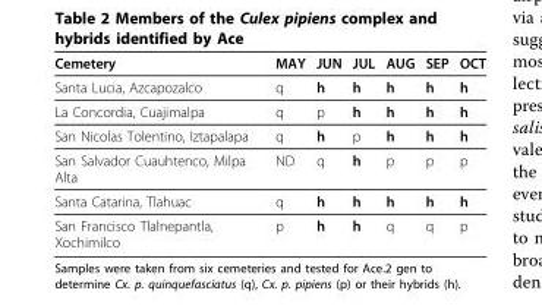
<table><thead><tr><td>Cemetery</td><td>MAY</td><td>JUN</td><td>JUL</td><td>AUG</td><td>SEP</td><td>OCT</td></tr></thead><tbody><tr><td>Santa Lucia, Azcapozalco</td><td>q</td><td>h</td><td>h</td><td>h</td><td>h</td><td>h</td></tr><tr><td>La Concordia, Cuajimalpa</td><td>q</td><td>p</td><td>h</td><td>h</td><td>h</td><td>h</td></tr><tr><td>San Nicolas Tolentino, Iztapalapa</td><td>q</td><td>h</td><td>p</td><td>h</td><td>h</td><td>h</td></tr><tr><td>San Salvador Cuauhtenco, Milpa Alta</td><td>ND</td><td>q</td><td>h</td><td>p</td><td>p</td><td>p</td></tr><tr><td>Santa Catarina, Tlahuac</td><td>q</td><td>h</td><td>h</td><td>h</td><td>h</td><td>h</td></tr><tr><td>San Francisco Tlalnepantla, Xochimilco</td><td>p</td><td>h</td><td>h</td><td>q</td><td>q</td><td>p</td></tr></tbody></table>